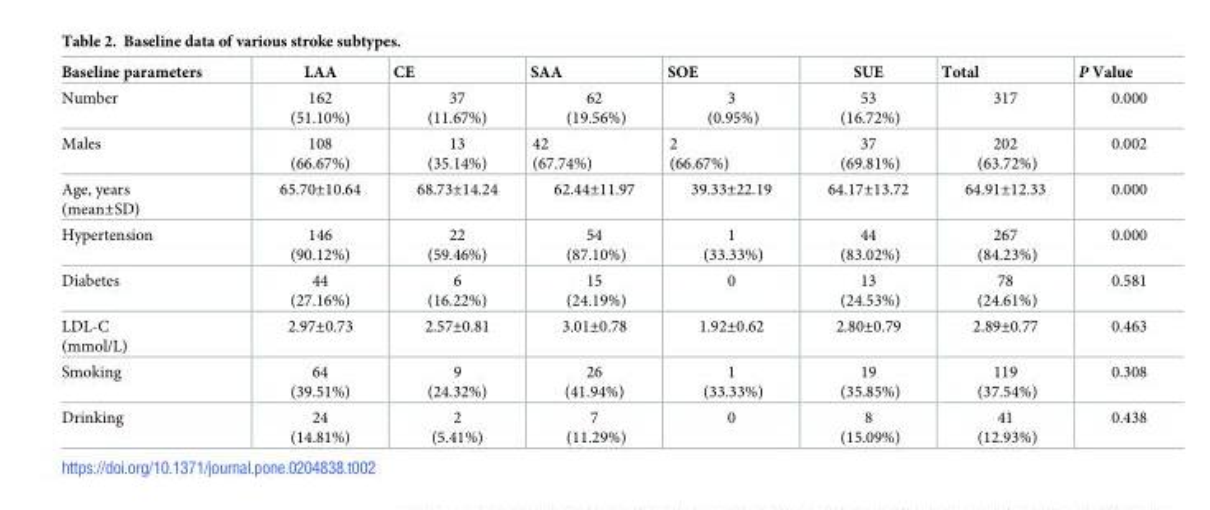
<table><thead><tr><td>Baseline parameters</td><td>LAA</td><td>CE</td><td>SAA</td><td>SOE</td><td>SUE</td><td>Total</td><td>P Value</td></tr></thead><tbody><tr><td>Number</td><td>162 (51.10%)</td><td>37 (11.67%)</td><td>62 (19.56%)</td><td>3 (0.95%)</td><td>53 (16.72%)</td><td>317</td><td>0.000</td></tr><tr><td>Males</td><td>108 (66.67%)</td><td>13 (35.14%)</td><td>42 (67.74%)</td><td>2 (66.67%)</td><td>37 (69.81%)</td><td>202 (63.72%)</td><td>0.002</td></tr><tr><td>Age, years (mean±SD)</td><td>65.70±10.64</td><td>68.73±14.24</td><td>62.44±11.97</td><td>39.33±22.19</td><td>64.17±13.72</td><td>64.91±12.33</td><td>0.000</td></tr><tr><td>Hypertension</td><td>146 (90.12%)</td><td>22 (59.46%)</td><td>54 (87.10%)</td><td>1 (33.33%)</td><td>44 (83.02%)</td><td>267 (84.23%)</td><td>0.000</td></tr><tr><td>Diabetes</td><td>44 (27.16%)</td><td>6 (16.22%)</td><td>15 (24.19%)</td><td>0</td><td>13 (24.53%)</td><td>78 (24.61%)</td><td>0.581</td></tr><tr><td>LDL-C (mmol/L)</td><td>2.97±0.73</td><td>2.57±0.81</td><td>3.01±0.78</td><td>1.92±0.62</td><td>2.80±0.79</td><td>2.89±0.77</td><td>0.463</td></tr><tr><td>Smoking</td><td>64 (39.51%)</td><td>9 (24.32%)</td><td>26 (41.94%)</td><td>1 (33.33%)</td><td>19 (35.85%)</td><td>119 (37.54%)</td><td>0.308</td></tr><tr><td>Drinking</td><td>24 (14.81%)</td><td>2 (5.41%)</td><td>7 (11.29%)</td><td>0</td><td>8 (15.09%)</td><td>41 (12.93%)</td><td>0.438</td></tr></tbody></table>